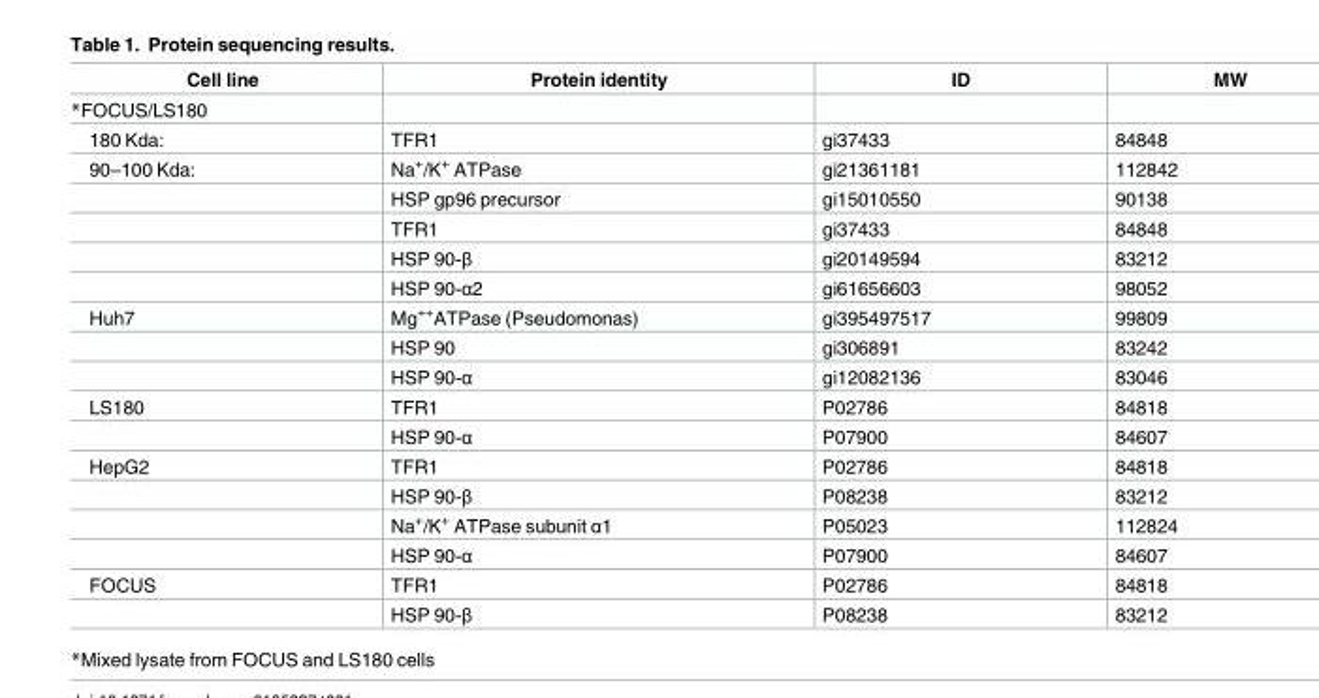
<table><thead><tr><td>Cell line</td><td>Protein identity</td><td>ID</td><td>MW</td></tr></thead><tbody><tr><td colspan="4">*FOCUS/LS180</td></tr><tr><td>180 Kda:</td><td>TFR1</td><td>gi37433</td><td>84848</td></tr><tr><td rowspan="5">90–100 Kda:</td><td>Na<sup>+</sup>/K<sup>+</sup> ATPase</td><td>gi21361181</td><td>112842</td></tr><tr><td>HSP gp96 precursor</td><td>gi15010550</td><td>90138</td></tr><tr><td>TFR1</td><td>gi37433</td><td>84848</td></tr><tr><td>HSP 90-β</td><td>gi20149594</td><td>83212</td></tr><tr><td>HSP 90-α2</td><td>gi61656603</td><td>98052</td></tr><tr><td rowspan="3">Huh7</td><td>Mg<sup>++</sup>ATPase (Pseudomonas)</td><td>gi395497517</td><td>99809</td></tr><tr><td>HSP 90</td><td>gi306891</td><td>83242</td></tr><tr><td>HSP 90-α</td><td>gi12082136</td><td>83046</td></tr><tr><td rowspan="2">LS180</td><td>TFR1</td><td>P02786</td><td>84818</td></tr><tr><td>HSP 90-α</td><td>P07900</td><td>84607</td></tr><tr><td rowspan="4">HepG2</td><td>TFR1</td><td>P02786</td><td>84818</td></tr><tr><td>HSP 90-β</td><td>P08238</td><td>83212</td></tr><tr><td>Na<sup>+</sup>/K<sup>+</sup> ATPase subunit α1</td><td>P05023</td><td>112824</td></tr><tr><td>HSP 90-α</td><td>P07900</td><td>84607</td></tr><tr><td rowspan="2">FOCUS</td><td>TFR1</td><td>P02786</td><td>84818</td></tr><tr><td>HSP 90-β</td><td>P08238</td><td>83212</td></tr></tbody></table>